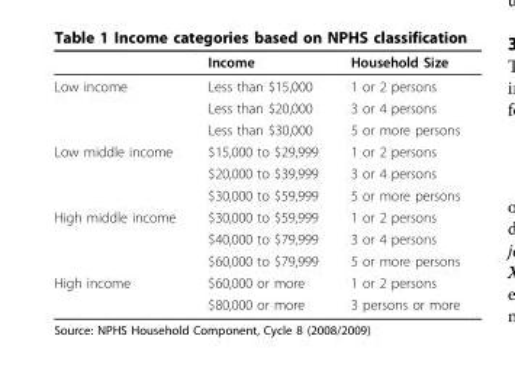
<table><thead><tr><td></td><td>Income</td><td>Household Size</td></tr></thead><tbody><tr><td rowspan="3">Low income</td><td>Less than $15,000</td><td>1 or 2 persons</td></tr><tr><td>Less than $20,000</td><td>3 or 4 persons</td></tr><tr><td>Less than $30,000</td><td>5 or more persons</td></tr><tr><td rowspan="3">Low middle income</td><td>$15,000 to $29,999</td><td>1 or 2 persons</td></tr><tr><td>$20,000 to $39,999</td><td>3 or 4 persons</td></tr><tr><td>$30,000 to $59,999</td><td>5 or more persons</td></tr><tr><td rowspan="3">High middle income</td><td>$30,000 to $59,999</td><td>1 or 2 persons</td></tr><tr><td>$40,000 to $79,999</td><td>3 or 4 persons</td></tr><tr><td>$60,000 to $79,999</td><td>5 or more persons</td></tr><tr><td rowspan="2">High income</td><td>$60,000 or more</td><td>1 or 2 persons</td></tr><tr><td>$80,000 or more</td><td>3 persons or more</td></tr></tbody></table>